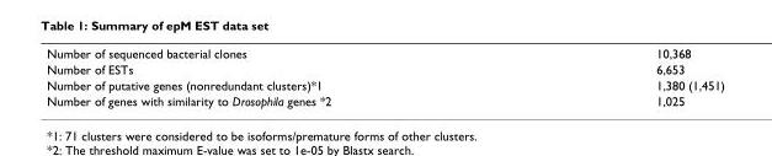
<table><tbody><tr><td>Number of sequenced bacterial clones</td><td>10,368</td></tr><tr><td>Number of ESTs</td><td>6,653</td></tr><tr><td>Number of putative genes (nonredundant clusters)*1</td><td>1,380 (1,451)</td></tr><tr><td>Number of genes with similarity to Drosophila genes *2</td><td>1,025</td></tr></tbody></table>